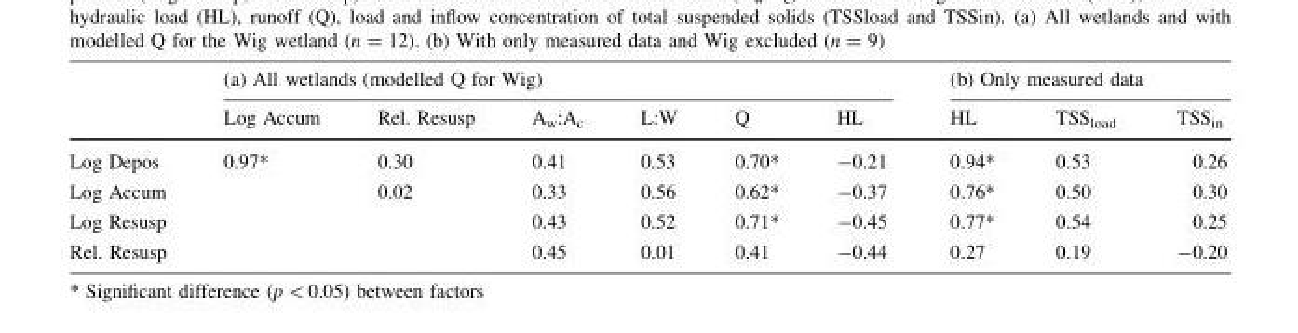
<table><thead><tr><td rowspan="2"></td><td colspan="6">(a) All wetlands (modelled Q for Wig)</td><td colspan="3">(b) Only measured data</td></tr><tr><td>Log Accum</td><td>Rel. Resusp</td><td>A<sub>w</sub>:A<sub>c</sub></td><td>L:W</td><td>Q</td><td>HL</td><td>HL</td><td>TSS<sub>load</sub></td><td>TSS<sub>in</sub></td></tr></thead><tbody><tr><td>Log Depos</td><td>0.97*</td><td>0.30</td><td>0.41</td><td>0.53</td><td>0.70*</td><td>-0.21</td><td>0.94*</td><td>0.53</td><td>0.26</td></tr><tr><td>Log Accum</td><td></td><td>0.02</td><td>0.33</td><td>0.56</td><td>0.62*</td><td>-0.37</td><td>0.76*</td><td>0.50</td><td>0.30</td></tr><tr><td>Log Resusp</td><td></td><td></td><td>0.43</td><td>0.52</td><td>0.71*</td><td>-0.45</td><td>0.77*</td><td>0.54</td><td>0.25</td></tr><tr><td>Rel. Resusp</td><td></td><td></td><td>0.45</td><td>0.01</td><td>0.41</td><td>-0.44</td><td>0.27</td><td>0.19</td><td>-0.20</td></tr></tbody></table>